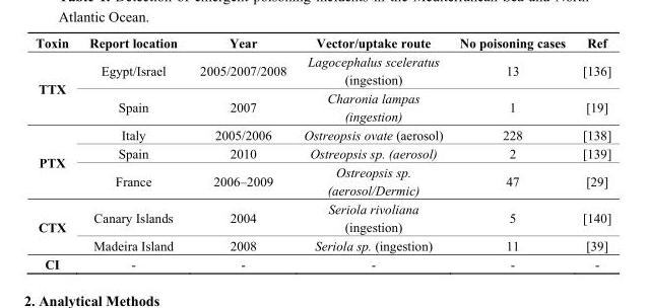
<table><thead><tr><td>Toxin</td><td>Report location</td><td>Year</td><td>Vector/uptake route</td><td>No poisoning cases</td><td>Ref</td></tr></thead><tbody><tr><td rowspan="2">TTX</td><td>Egypt/Israel</td><td>2005/2007/2008</td><td>Lagocephalus sceleratus (ingestion)</td><td>13</td><td>[136]</td></tr><tr><td>Spain</td><td>2007</td><td>Charonia lampas (ingestion)</td><td>1</td><td>[19]</td></tr><tr><td rowspan="3">PTX</td><td>Italy</td><td>2005/2006</td><td>Ostreopsis ovate (aerosol)</td><td>228</td><td>[138]</td></tr><tr><td>Spain</td><td>2010</td><td>Ostreopsis sp. (aerosol)</td><td>2</td><td>[139]</td></tr><tr><td>France</td><td>2006–2009</td><td>Ostreopsis sp. (aerosol/Dermic)</td><td>47</td><td>[29]</td></tr><tr><td rowspan="2">CTX</td><td>Canary Islands</td><td>2004</td><td>Seriola rivoliana (ingestion)</td><td>5</td><td>[140]</td></tr><tr><td>Madeira Island</td><td>2008</td><td>Seriola sp. (ingestion)</td><td>11</td><td>[39]</td></tr><tr><td>CI</td><td>-</td><td>-</td><td>-</td><td>-</td><td>-</td></tr></tbody></table>